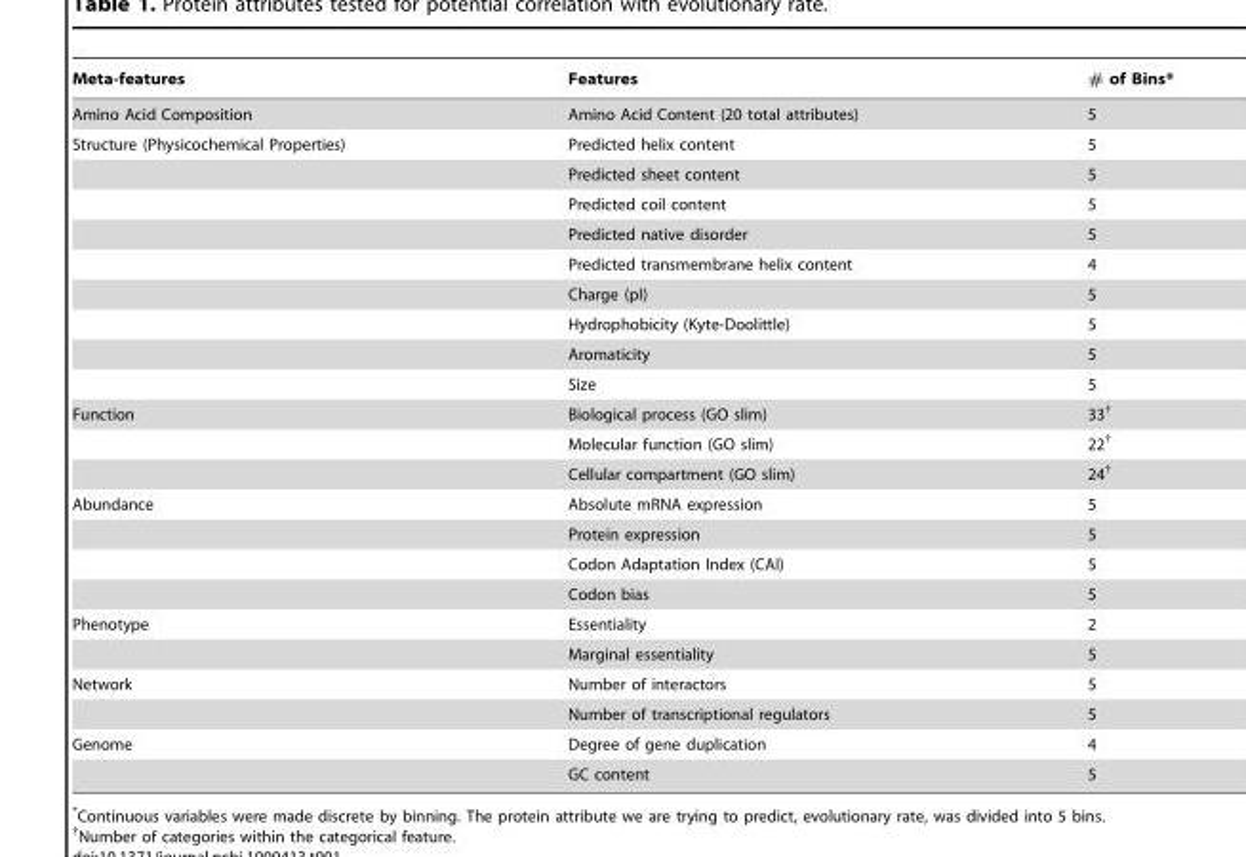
<table><thead><tr><td>Meta-features</td><td>Features</td><td># of Bins*</td></tr></thead><tbody><tr><td>Amino Acid Composition</td><td>Amino Acid Content (20 total attributes)</td><td>5</td></tr><tr><td rowspan="9">Structure (Physicochemical Properties)</td><td>Predicted helix content</td><td>5</td></tr><tr><td>Predicted sheet content</td><td>5</td></tr><tr><td>Predicted coil content</td><td>5</td></tr><tr><td>Predicted native disorder</td><td>5</td></tr><tr><td>Predicted transmembrane helix content</td><td>4</td></tr><tr><td>Charge (pI)</td><td>5</td></tr><tr><td>Hydrophobicity (Kyte-Doolittle)</td><td>5</td></tr><tr><td>Aromaticity</td><td>5</td></tr><tr><td>Size</td><td>5</td></tr><tr><td rowspan="3">Function</td><td>Biological process (GO slim)</td><td>33†</td></tr><tr><td>Molecular function (GO slim)</td><td>22†</td></tr><tr><td>Cellular compartment (GO slim)</td><td>24†</td></tr><tr><td rowspan="4">Abundance</td><td>Absolute mRNA expression</td><td>5</td></tr><tr><td>Protein expression</td><td>5</td></tr><tr><td>Codon Adaptation Index (CAI)</td><td>5</td></tr><tr><td>Codon bias</td><td>5</td></tr><tr><td rowspan="2">Phenotype</td><td>Essentiality</td><td>2</td></tr><tr><td>Marginal essentiality</td><td>5</td></tr><tr><td rowspan="2">Network</td><td>Number of interactors</td><td>5</td></tr><tr><td>Number of transcriptional regulators</td><td>5</td></tr><tr><td rowspan="2">Genome</td><td>Degree of gene duplication</td><td>4</td></tr><tr><td>GC content</td><td>5</td></tr></tbody></table>